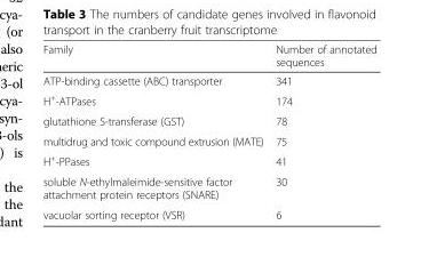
<table><thead><tr><td>Family</td><td>Number of annotated sequences</td></tr></thead><tbody><tr><td>ATP-binding cassette (ABC) transporter</td><td>341</td></tr><tr><td>H<sup>+</sup>-ATPases</td><td>174</td></tr><tr><td>glutathione S-transferase (GST)</td><td>78</td></tr><tr><td>multidrug and toxic compound extrusion (MATE)</td><td>75</td></tr><tr><td>H<sup>+</sup>-PPases</td><td>41</td></tr><tr><td>soluble N-ethylmaleimide-sensitive factor attachment protein receptors (SNARE)</td><td>30</td></tr><tr><td>vacuolar sorting receptor (VSR)</td><td>6</td></tr></tbody></table>